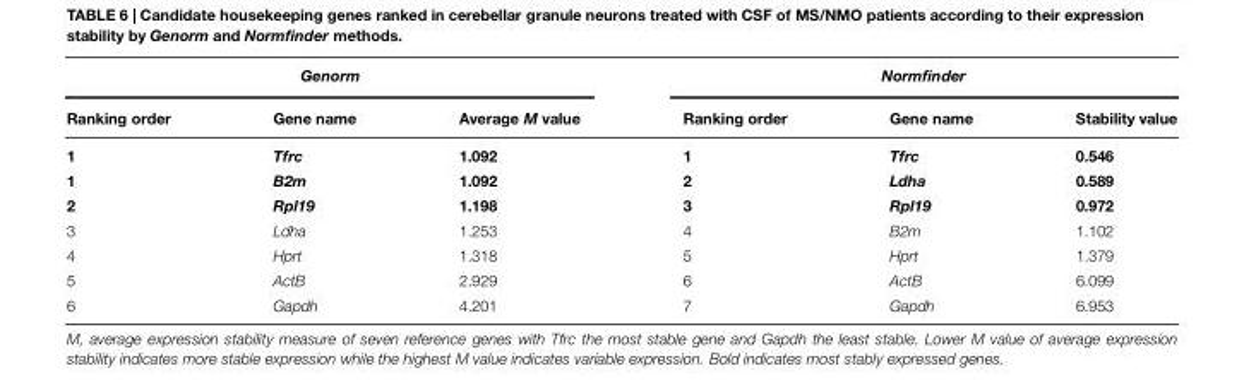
<table><thead><tr><td colspan="3">Genorm</td><td colspan="3">Normfinder</td></tr><tr><td>Ranking order</td><td>Gene name</td><td>Average M value</td><td>Ranking order</td><td>Gene name</td><td>Stability value</td></tr></thead><tbody><tr><td>1</td><td>Tfrc</td><td>1.092</td><td>1</td><td>Tfrc</td><td>0.546</td></tr><tr><td>1</td><td>B2m</td><td>1.092</td><td>2</td><td>Ldha</td><td>0.589</td></tr><tr><td>2</td><td>Rpl19</td><td>1.198</td><td>3</td><td>Rpl19</td><td>0.972</td></tr><tr><td>3</td><td>Ldha</td><td>1.253</td><td>4</td><td>B2m</td><td>1.102</td></tr><tr><td>4</td><td>Hprt</td><td>1.318</td><td>5</td><td>Hprt</td><td>1.379</td></tr><tr><td>5</td><td>ActB</td><td>2.929</td><td>6</td><td>ActB</td><td>6.099</td></tr><tr><td>6</td><td>Gapdh</td><td>4.201</td><td>7</td><td>Gapdh</td><td>6.953</td></tr></tbody></table>